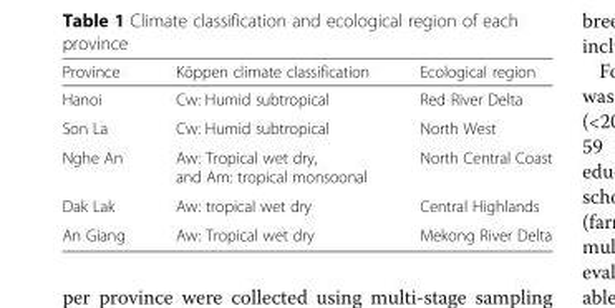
<table><thead><tr><td>Province</td><td>Köppen climate classification</td><td>Ecological region</td></tr></thead><tbody><tr><td>Hanoi</td><td>Cw: Humid subtropical</td><td>Red River Delta</td></tr><tr><td>Son La</td><td>Cw: Humid subtropical</td><td>North West</td></tr><tr><td>Nghe An</td><td>Aw: Tropical wet dry, and Am: tropical monsoonal</td><td>North Central Coast</td></tr><tr><td>Dak Lak</td><td>Aw: tropical wet dry</td><td>Central Highlands</td></tr><tr><td>An Giang</td><td>Aw: Tropical wet dry</td><td>Mekong River Delta</td></tr></tbody></table>